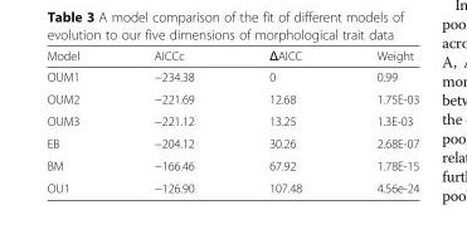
<table><thead><tr><td>Model</td><td>AICCc</td><td>ΔAICC</td><td>Weight</td></tr></thead><tbody><tr><td>OUM1</td><td>−234.38</td><td>0</td><td>0.99</td></tr><tr><td>OUM2</td><td>−221.69</td><td>12.68</td><td>1.75E-03</td></tr><tr><td>OUM3</td><td>−221.12</td><td>13.25</td><td>1.3E-03</td></tr><tr><td>EB</td><td>−204.12</td><td>30.26</td><td>2.68E-07</td></tr><tr><td>BM</td><td>−166.46</td><td>67.92</td><td>1.78E-15</td></tr><tr><td>OU1</td><td>−126.90</td><td>107.48</td><td>4.56e-24</td></tr></tbody></table>